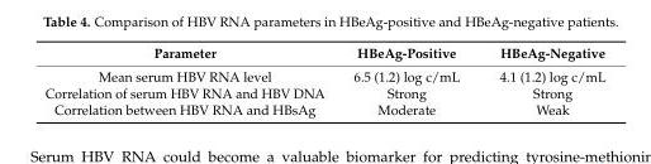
<table><thead><tr><td>Parameter</td><td>HBeAg-Positive</td><td>HBeAg-Negative</td></tr></thead><tbody><tr><td>Mean serum HBV RNA level</td><td>6.5 (1.2) log c/mL</td><td>4.1 (1.2) log c/mL</td></tr><tr><td>Correlation of serum HBV RNA and HBV DNA</td><td>Strong</td><td>Strong</td></tr><tr><td>Correlation between HBV RNA and HBsAg</td><td>Moderate</td><td>Weak</td></tr></tbody></table>